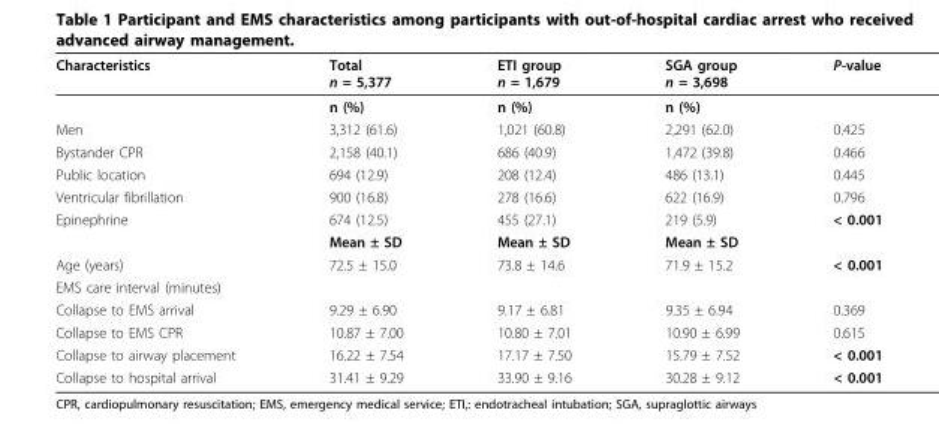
<table><thead><tr><td>Characteristics</td><td>Total n = 5,377</td><td>ETI group n = 1,679</td><td>SGA group n = 3,698</td><td>P-value</td></tr></thead><tbody><tr><td></td><td>n (%)</td><td>n (%)</td><td>n (%)</td><td></td></tr><tr><td>Men</td><td>3,312 (61.6)</td><td>1,021 (60.8)</td><td>2,291 (62.0)</td><td>0.425</td></tr><tr><td>Bystander CPR</td><td>2,158 (40.1)</td><td>686 (40.9)</td><td>1,472 (39.8)</td><td>0.466</td></tr><tr><td>Public location</td><td>694 (12.9)</td><td>208 (12.4)</td><td>486 (13.1)</td><td>0.445</td></tr><tr><td>Ventricular fibrillation</td><td>900 (16.8)</td><td>278 (16.6)</td><td>622 (16.9)</td><td>0.796</td></tr><tr><td rowspan="2">Epinephrine</td><td>674 (12.5)</td><td>455 (27.1)</td><td>219 (5.9)</td><td>&lt; 0.001</td></tr><tr><td>Mean ± SD</td><td>Mean ± SD</td><td>Mean ± SD</td><td></td></tr><tr><td>Age (years)</td><td>72.5 ± 15.0</td><td>73.8 ± 14.6</td><td>71.9 ± 15.2</td><td>&lt; 0.001</td></tr><tr><td colspan="5">EMS care interval (minutes)</td></tr><tr><td>Collapse to EMS arrival</td><td>9.29 ± 6.90</td><td>9.17 ± 6.81</td><td>9.35 ± 6.94</td><td>0.369</td></tr><tr><td>Collapse to EMS CPR</td><td>10.87 ± 7.00</td><td>10.80 ± 7.01</td><td>10.90 ± 6.99</td><td>0.615</td></tr><tr><td>Collapse to airway placement</td><td>16.22 ± 7.54</td><td>17.17 ± 7.50</td><td>15.79 ± 7.52</td><td>&lt; 0.001</td></tr><tr><td>Collapse to hospital arrival</td><td>31.41 ± 9.29</td><td>33.90 ± 9.16</td><td>30.28 ± 9.12</td><td>&lt; 0.001</td></tr></tbody></table>